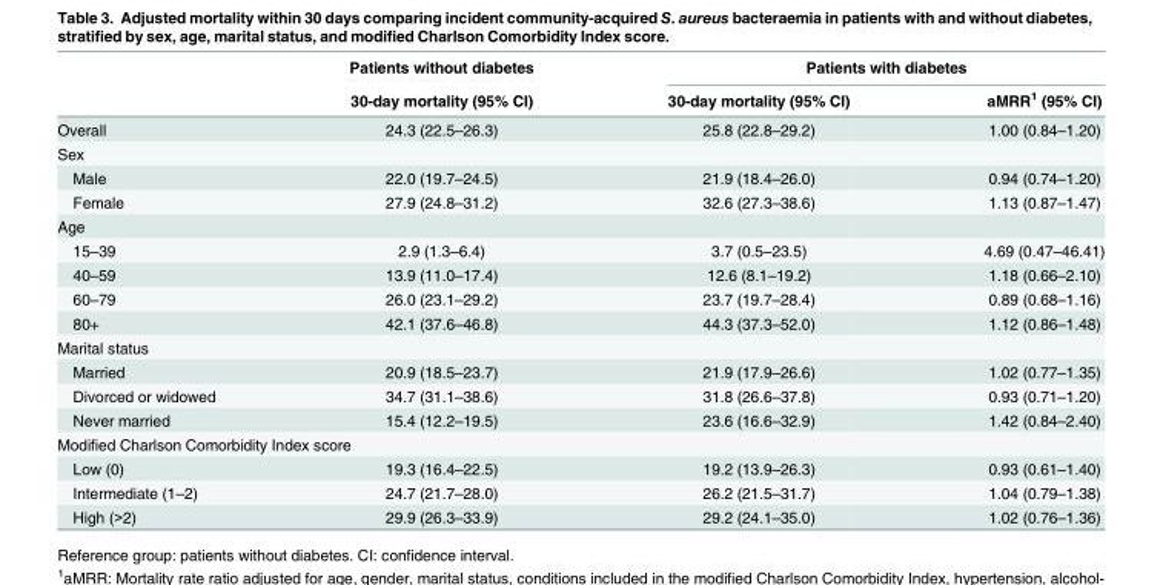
<table><thead><tr><td rowspan="2"></td><td rowspan="2">Patients without diabetes 30-day mortality (95% CI)</td><td colspan="2">Patients with diabetes</td></tr><tr><td>30-day mortality (95% CI)</td><td>aMRR<sup>1</sup> (95% CI)</td></tr></thead><tbody><tr><td>Overall</td><td>24.3 (22.5–26.3)</td><td>25.8 (22.8–29.2)</td><td>1.00 (0.84–1.20)</td></tr><tr><td colspan="4">Sex</td></tr><tr><td>Male</td><td>22.0 (19.7–24.5)</td><td>21.9 (18.4–26.0)</td><td>0.94 (0.74–1.20)</td></tr><tr><td>Female</td><td>27.9 (24.8–31.2)</td><td>32.6 (27.3–38.6)</td><td>1.13 (0.87–1.47)</td></tr><tr><td colspan="4">Age</td></tr><tr><td>15–39</td><td>2.9 (1.3–6.4)</td><td>3.7 (0.5–23.5)</td><td>4.69 (0.47–46.41)</td></tr><tr><td>40–59</td><td>13.9 (11.0–17.4)</td><td>12.6 (8.1–19.2)</td><td>1.18 (0.66–2.10)</td></tr><tr><td>60–79</td><td>26.0 (23.1–29.2)</td><td>23.7 (19.7–28.4)</td><td>0.89 (0.68–1.16)</td></tr><tr><td>80+</td><td>42.1 (37.6–46.8)</td><td>44.3 (37.3–52.0)</td><td>1.12 (0.86–1.48)</td></tr><tr><td colspan="4">Marital status</td></tr><tr><td>Married</td><td>20.9 (18.5–23.7)</td><td>21.9 (17.9–26.6)</td><td>1.02 (0.77–1.35)</td></tr><tr><td>Divorced or widowed</td><td>34.7 (31.1–38.6)</td><td>31.8 (26.6–37.8)</td><td>0.93 (0.71–1.20)</td></tr><tr><td>Never married</td><td>15.4 (12.2–19.5)</td><td>23.6 (16.6–32.9)</td><td>1.42 (0.84–2.40)</td></tr><tr><td colspan="4">Modified Charlson Comorbidity Index score</td></tr><tr><td>Low (0)</td><td>19.3 (16.4–22.5)</td><td>19.2 (13.9–26.3)</td><td>0.93 (0.61–1.40)</td></tr><tr><td>Intermediate (1–2)</td><td>24.7 (21.7–28.0)</td><td>26.2 (21.5–31.7)</td><td>1.04 (0.79–1.38)</td></tr><tr><td>High (&gt;2)</td><td>29.9 (26.3–33.9)</td><td>29.2 (24.1–35.0)</td><td>1.02 (0.76–1.36)</td></tr></tbody></table>